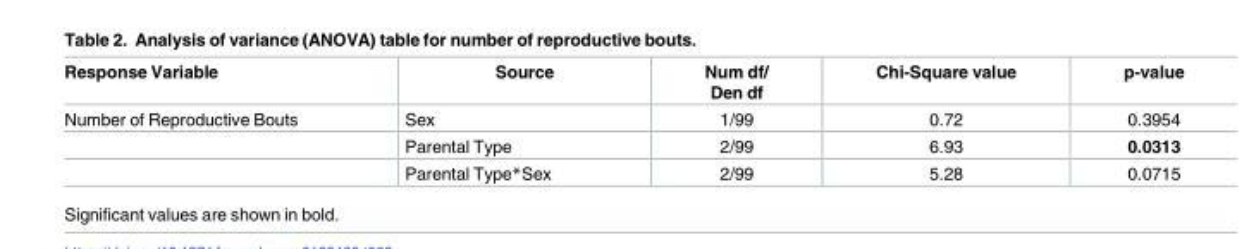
<table><thead><tr><td>Response Variable</td><td>Source</td><td>Num df/ Den df</td><td>Chi-Square value</td><td>p-value</td></tr></thead><tbody><tr><td rowspan="3">Number of Reproductive Bouts</td><td>Sex</td><td>1/99</td><td>0.72</td><td>0.3954</td></tr><tr><td>Parental Type</td><td>2/99</td><td>6.93</td><td>0.0313</td></tr><tr><td>Parental Type*Sex</td><td>2/99</td><td>5.28</td><td>0.0715</td></tr></tbody></table>